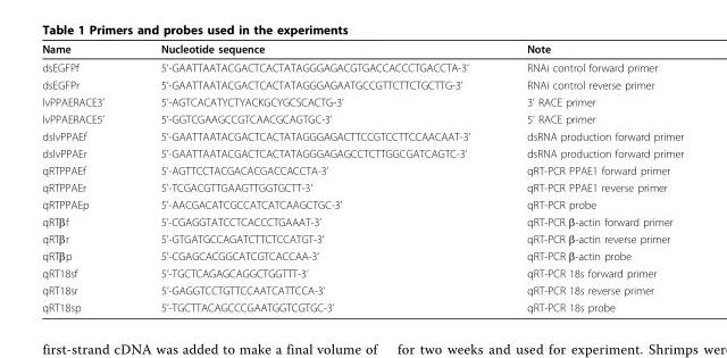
<table><thead><tr><td>Name</td><td>Nucleotide sequence</td><td>Note</td></tr></thead><tbody><tr><td>dsEGFPf</td><td>5’-GAATTAATACGACTCACTATAGGGAGACGTGACCACCCTGACCTA-3’</td><td>RNAi control forward primer</td></tr><tr><td>dsEGFPr</td><td>5’-GAATTAATACGACTCACTATAGGGAGAATGCCGTTCTTCTGCTTG-3’</td><td>RNAi control reverse primer</td></tr><tr><td>lvPPAERACE3’</td><td>5’-AGTCACATYCTYACKGCYGCSCACTG-3’</td><td>3’ RACE primer</td></tr><tr><td>lvPPAERACE5’</td><td>5’-GGTCGAAGCCGTCAACGCAGTGC-3’</td><td>5’ RACE primer</td></tr><tr><td>dslvPPAEf</td><td>5’-GAATTAATACGACTCACTATAGGGAGACTTCCGTCCTTCCAACAAT-3’</td><td>dsRNA production forward primer</td></tr><tr><td>dslvPPAEr</td><td>5’-GAATTAATACGACTCACTATAGGGAGAGCCTCTTGGCGATCAGTC-3’</td><td>dsRNA production forward primer</td></tr><tr><td>qRTPPAEf</td><td>5’-AGTTCCTACGACACGACCACCTA-3’</td><td>qRT-PCR PPAE1 forward primer</td></tr><tr><td>qRTPPAEr</td><td>5’-TCGACGTTGAAGTTGGTGCTT-3’</td><td>qRT-PCR PPAE1 reverse primer</td></tr><tr><td>qRTPPAEp</td><td>5’-AACGACATCGCCATCATCAAGCTGC-3’</td><td>qRT-PCR probe</td></tr><tr><td>qRTβf</td><td>5’-CGAGGTATCCTCACCCTGAAAT-3’</td><td>qRT-PCR β-actin forward primer</td></tr><tr><td>qRTβr</td><td>5’-GTGATGCCAGATCTTCTCCATGT-3’</td><td>qRT-PCR β-actin reverse primer</td></tr><tr><td>qRTβp</td><td>5’-CGAGCACGGCATCGTCACCAA-3’</td><td>qRT-PCR β-actin probe</td></tr><tr><td>qRT18sf</td><td>5’-TGCTCAGAGCAGGCTGGTTT-3’</td><td>qRT-PCR 18s forward primer</td></tr><tr><td>qRT18sr</td><td>5’-GAGGTCCTGTTCCAATCATTCCA-3’</td><td>qRT-PCR 18s reverse primer</td></tr><tr><td>qRT18sp</td><td>5’-TGCTTACAGCCCGAATGGTCGTGC-3’</td><td>qRT-PCR 18s probe</td></tr></tbody></table>